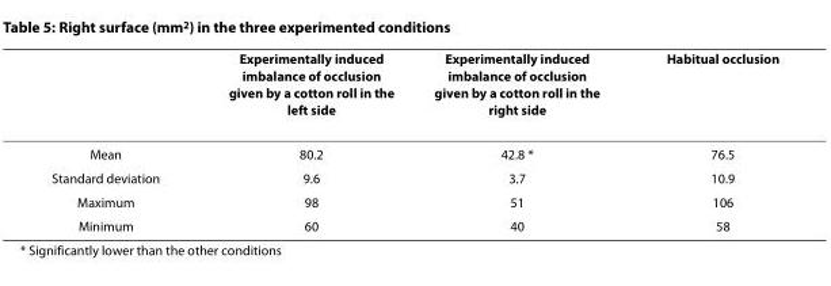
<table><thead><tr><td></td><td>Experimentally induced imbalance of occlusion given by a cotton roll in the left side</td><td>Experimentally induced imbalance of occlusion given by a cotton roll in the right side</td><td>Habitual occlusion</td></tr></thead><tbody><tr><td>Mean</td><td>80.2</td><td>42.8 *</td><td>76.5</td></tr><tr><td>Standard deviation</td><td>9.6</td><td>3.7</td><td>10.9</td></tr><tr><td>Maximum</td><td>98</td><td>51</td><td>106</td></tr><tr><td>Minimum</td><td>60</td><td>40</td><td>58</td></tr></tbody></table>